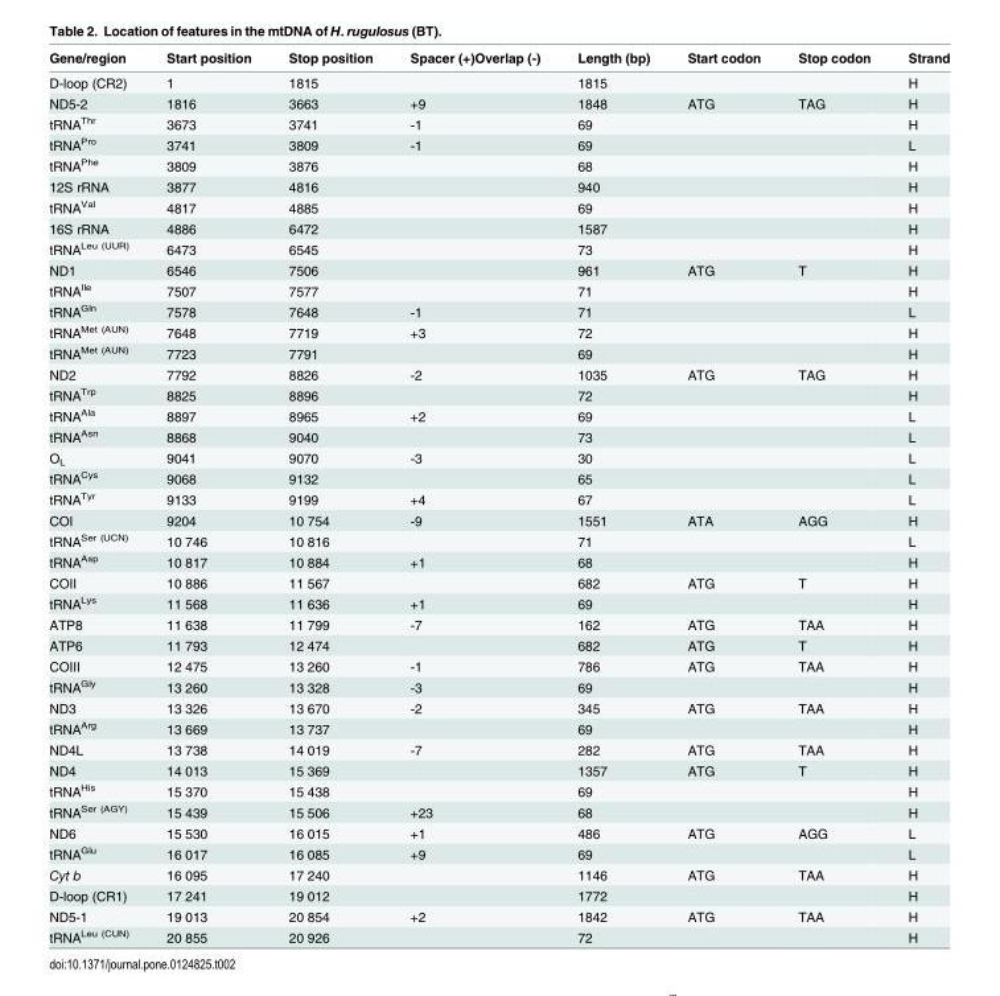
<table><thead><tr><td>Gene/region</td><td>Start position</td><td>Stop position</td><td>Spacer (+)Overlap (-)</td><td>Length (bp)</td><td>Start codon</td><td>Stop codon</td><td>Strand</td></tr></thead><tbody><tr><td>D-loop (CR2)</td><td>1</td><td>1815</td><td></td><td>1815</td><td></td><td></td><td>H</td></tr><tr><td>ND5-2</td><td>1816</td><td>3663</td><td>+9</td><td>1848</td><td>ATG</td><td>TAG</td><td>H</td></tr><tr><td>tRNA<sup>Thr</sup></td><td>3673</td><td>3741</td><td>-1</td><td>69</td><td></td><td></td><td>H</td></tr><tr><td>tRNA<sup>Pro</sup></td><td>3741</td><td>3809</td><td>-1</td><td>69</td><td></td><td></td><td>L</td></tr><tr><td>tRNA<sup>Phe</sup></td><td>3809</td><td>3876</td><td></td><td>68</td><td></td><td></td><td>H</td></tr><tr><td>12S rRNA</td><td>3877</td><td>4816</td><td></td><td>940</td><td></td><td></td><td>H</td></tr><tr><td>tRNA<sup>Val</sup></td><td>4817</td><td>4885</td><td></td><td>69</td><td></td><td></td><td>H</td></tr><tr><td>16S rRNA</td><td>4886</td><td>6472</td><td></td><td>1587</td><td></td><td></td><td>H</td></tr><tr><td>tRNA<sup>Leu (UUR)</sup></td><td>6473</td><td>6545</td><td></td><td>73</td><td></td><td></td><td>H</td></tr><tr><td>ND1</td><td>6546</td><td>7506</td><td></td><td>961</td><td>ATG</td><td>T</td><td>H</td></tr><tr><td>tRNA<sup>Ile</sup></td><td>7507</td><td>7577</td><td></td><td>71</td><td></td><td></td><td>H</td></tr><tr><td>tRNA<sup>Gln</sup></td><td>7578</td><td>7648</td><td>-1</td><td>71</td><td></td><td></td><td>L</td></tr><tr><td>tRNA<sup>Met (AUN)</sup></td><td>7648</td><td>7719</td><td>+3</td><td>72</td><td></td><td></td><td>H</td></tr><tr><td>tRNA<sup>Met (AUN)</sup></td><td>7723</td><td>7791</td><td></td><td>69</td><td></td><td></td><td>H</td></tr><tr><td>ND2</td><td>7792</td><td>8826</td><td>-2</td><td>1035</td><td>ATG</td><td>TAG</td><td>H</td></tr><tr><td>tRNA<sup>Trp</sup></td><td>8825</td><td>8896</td><td></td><td>72</td><td></td><td></td><td>H</td></tr><tr><td>tRNA<sup>Ala</sup></td><td>8897</td><td>8965</td><td>+2</td><td>69</td><td></td><td></td><td>L</td></tr><tr><td>tRNA<sup>Asn</sup></td><td>8868</td><td>9040</td><td></td><td>73</td><td></td><td></td><td>L</td></tr><tr><td>O<sub>L</sub></td><td>9041</td><td>9070</td><td>-3</td><td>30</td><td></td><td></td><td>L</td></tr><tr><td>tRNA<sup>Cys</sup></td><td>9068</td><td>9132</td><td></td><td>65</td><td></td><td></td><td>L</td></tr><tr><td>tRNA<sup>Tyr</sup></td><td>9133</td><td>9199</td><td>+4</td><td>67</td><td></td><td></td><td>L</td></tr><tr><td>COI</td><td>9204</td><td>10 754</td><td>-9</td><td>1551</td><td>ATA</td><td>AGG</td><td>H</td></tr><tr><td>tRNA<sup>Ser (UCN)</sup></td><td>10 746</td><td>10 816</td><td></td><td>71</td><td></td><td></td><td>L</td></tr><tr><td>tRNA<sup>Asp</sup></td><td>10 817</td><td>10 884</td><td>+1</td><td>68</td><td></td><td></td><td>H</td></tr><tr><td>COII</td><td>10 886</td><td>11 567</td><td></td><td>682</td><td>ATG</td><td>T</td><td>H</td></tr><tr><td>tRNA<sup>Lys</sup></td><td>11 568</td><td>11 636</td><td>+1</td><td>69</td><td></td><td></td><td>H</td></tr><tr><td>ATP8</td><td>11 638</td><td>11 799</td><td>-7</td><td>162</td><td>ATG</td><td>TAA</td><td>H</td></tr><tr><td>ATP6</td><td>11 793</td><td>12 474</td><td></td><td>682</td><td>ATG</td><td>T</td><td>H</td></tr><tr><td>COIII</td><td>12 475</td><td>13 260</td><td>-1</td><td>786</td><td>ATG</td><td>TAA</td><td>H</td></tr><tr><td>tRNA<sup>Gly</sup></td><td>13 260</td><td>13 328</td><td>-3</td><td>69</td><td></td><td></td><td>H</td></tr><tr><td>ND3</td><td>13 326</td><td>13 670</td><td>-2</td><td>345</td><td>ATG</td><td>TAA</td><td>H</td></tr><tr><td>tRNA<sup>Arg</sup></td><td>13 669</td><td>13 737</td><td></td><td>69</td><td></td><td></td><td>H</td></tr><tr><td>ND4L</td><td>13 738</td><td>14 019</td><td>-7</td><td>282</td><td>ATG</td><td>TAA</td><td>H</td></tr><tr><td>ND4</td><td>14 013</td><td>15 369</td><td></td><td>1357</td><td>ATG</td><td>T</td><td>H</td></tr><tr><td>tRNA<sup>His</sup></td><td>15 370</td><td>15 438</td><td></td><td>69</td><td></td><td></td><td>H</td></tr><tr><td>tRNA<sup>Ser (AGY)</sup></td><td>15 439</td><td>15 506</td><td>+23</td><td>68</td><td></td><td></td><td>H</td></tr><tr><td>ND6</td><td>15 530</td><td>16 015</td><td>+1</td><td>486</td><td>ATG</td><td>AGG</td><td>L</td></tr><tr><td>tRNA<sup>Glu</sup></td><td>16 017</td><td>16 085</td><td>+9</td><td>69</td><td></td><td></td><td>L</td></tr><tr><td>Cyt b</td><td>16 095</td><td>17 240</td><td></td><td>1146</td><td>ATG</td><td>TAA</td><td>H</td></tr><tr><td>D-loop (CR1)</td><td>17 241</td><td>19 012</td><td></td><td>1772</td><td></td><td></td><td>H</td></tr><tr><td>ND5-1</td><td>19 013</td><td>20 854</td><td>+2</td><td>1842</td><td>ATG</td><td>TAA</td><td>H</td></tr><tr><td>tRNA<sup>Leu (CUN)</sup></td><td>20 855</td><td>20 926</td><td></td><td>72</td><td></td><td></td><td>H</td></tr></tbody></table>